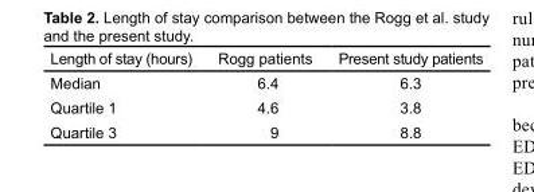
<table><thead><tr><td>Length of stay (hours)</td><td>Rogg patients</td><td>Present study patients</td></tr></thead><tbody><tr><td>Median</td><td>6.4</td><td>6.3</td></tr><tr><td>Quartile 1</td><td>4.6</td><td>3.8</td></tr><tr><td>Quartile 3</td><td>9</td><td>8.8</td></tr></tbody></table>